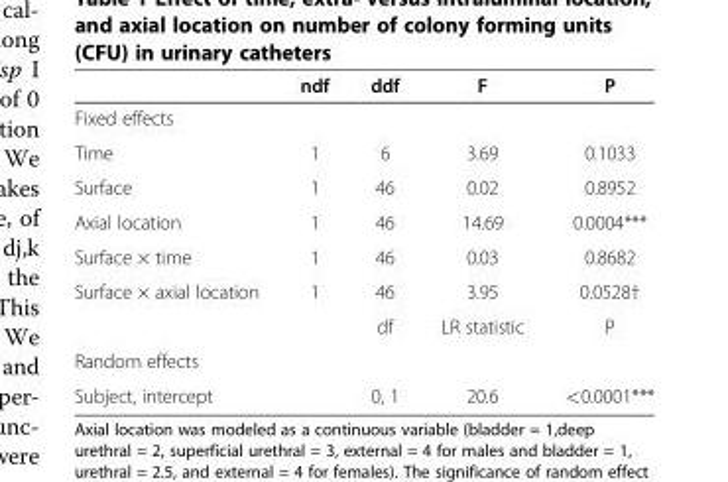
<table><thead><tr><td></td><td>ndf</td><td>ddf</td><td>F</td><td>P</td></tr></thead><tbody><tr><td colspan="5">Fixed effects</td></tr><tr><td>Time</td><td>1</td><td>6</td><td>3.69</td><td>0.1033</td></tr><tr><td>Surface</td><td>1</td><td>46</td><td>0.02</td><td>0.8952</td></tr><tr><td>Axial location</td><td>1</td><td>46</td><td>14.69</td><td>0.0004***</td></tr><tr><td>Surface × time</td><td>1</td><td>46</td><td>0.03</td><td>0.8682</td></tr><tr><td rowspan="2">Surface × axial location</td><td>1</td><td>46</td><td>3.95</td><td>0.0528†</td></tr><tr><td></td><td>df</td><td>LR statistic</td><td>P</td></tr><tr><td colspan="5">Random effects</td></tr><tr><td>Subject, intercept</td><td></td><td>0, 1</td><td>20.6</td><td>&lt;0.0001***</td></tr></tbody></table>